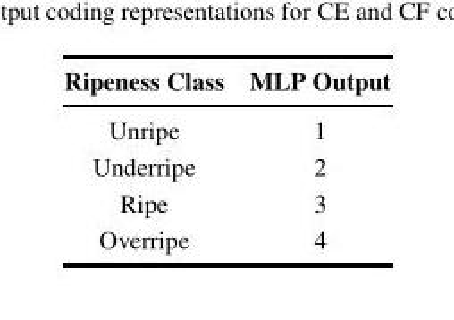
<table><thead><tr><td>Ripeness Class</td><td>MLP Output</td></tr></thead><tbody><tr><td>Unripe</td><td>1</td></tr><tr><td>Underripe</td><td>2</td></tr><tr><td>Ripe</td><td>3</td></tr><tr><td>Overripe</td><td>4</td></tr></tbody></table>